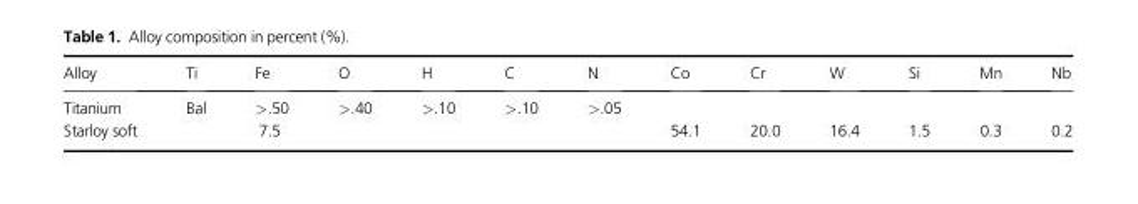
<table><thead><tr><td>Alloy</td><td>Ti</td><td>Fe</td><td>O</td><td>H</td><td>C</td><td>N</td><td>Co</td><td>Cr</td><td>W</td><td>Si</td><td>Mn</td><td>Nb</td></tr></thead><tbody><tr><td>Titanium</td><td>Bal</td><td>&gt;.50</td><td>&gt;.40</td><td>&gt;.10</td><td>&gt;.10</td><td>&gt;.05</td><td></td><td></td><td></td><td></td><td></td><td></td></tr><tr><td>Starloy soft</td><td></td><td>7.5</td><td></td><td></td><td></td><td></td><td>54.1</td><td>20.0</td><td>16.4</td><td>1.5</td><td>0.3</td><td>0.2</td></tr></tbody></table>